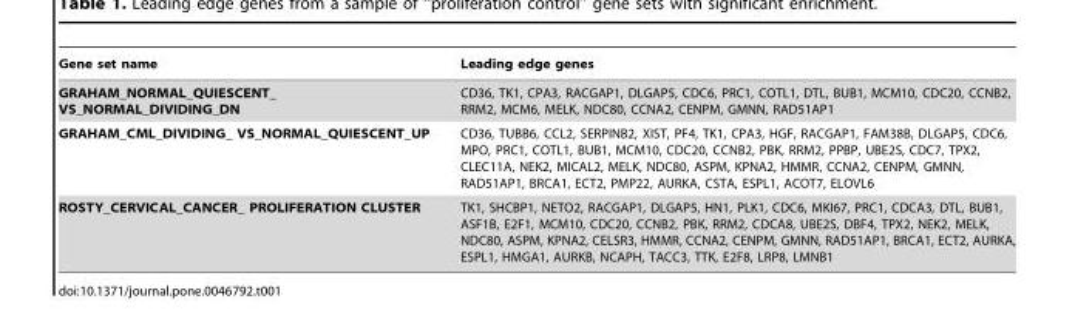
<table><thead><tr><td>Gene set name</td><td>Leading edge genes</td></tr></thead><tbody><tr><td>GRAHAM_NORMAL_QUIESCENT_ VS_NORMAL_DIVIDING_DN</td><td>CD36, TK1, CPA3, RACGAP1, DLGAP5, CDC6, PRC1, COTL1, DTL, BUB1, MCM10, CDC20, CCNB2, RRM2, MCM6, MELK, NDC80, CCNA2, CENPM, GMNN, RAD51AP1</td></tr><tr><td>GRAHAM_CML_DIVIDING_ VS_NORMAL_QUIESCENT_UP</td><td>CD36, TUBB6, CCL2, SERPINB2, XIST, PF4, TK1, CPA3, HGF, RACGAP1, FAM38B, DLGAP5, CDC6, MPO, PRC1, COTL1, BUB1, MCM10, CDC20, CCNB2, PBK, RRM2, PPBP, UBE2S, CDC7, TPX2, CLEC11A, NEK2, MICAL2, MELK, NDC80, ASPM, KPNA2, HMMR, CCNA2, CENPM, GMNN, RAD51AP1, BRCA1, ECT2, PMP22, AURKA, CSTA, ESPL1, ACOT7, ELOVL6</td></tr><tr><td>ROSTY_CERVICAL_CANCER_ PROLIFERATION CLUSTER</td><td>TK1, SHCBP1, NETO2, RACGAP1, DLGAP5, HN1, PLK1, CDC6, MKI67, PRC1, CDCA3, DTL, BUB1, ASF1B, E2F1, MCM10, CDC20, CCNB2, PBK, RRM2, CDCA8, UBE2S, DBF4, TPX2, NEK2, MELK, NDC80, ASPM, KPNA2, CELSR3, HMMR, CCNA2, CENPM, GMNN, RAD51AP1, BRCA1, ECT2, AURKA, ESPL1, HMGA1, AURKB, NCAPH, TACC3, TTK, E2F8, LRP8, LMNB1</td></tr></tbody></table>